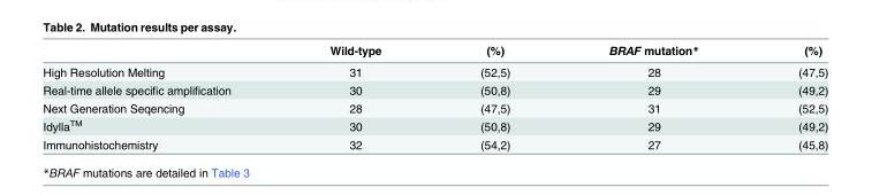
<table><thead><tr><td></td><td>Wild-type</td><td>(%)</td><td>BRAF mutation*</td><td>(%)</td></tr></thead><tbody><tr><td>High Resolution Melting</td><td>31</td><td>(52,5)</td><td>28</td><td>(47,5)</td></tr><tr><td>Real-time allele specific amplification</td><td>30</td><td>(50,8)</td><td>29</td><td>(49,2)</td></tr><tr><td>Next Generation Seqencing</td><td>28</td><td>(47,5)</td><td>31</td><td>(52,5)</td></tr><tr><td>Idylla<sup>TM</sup></td><td>30</td><td>(50,8)</td><td>29</td><td>(49,2)</td></tr><tr><td>Immunohistochemistry</td><td>32</td><td>(54,2)</td><td>27</td><td>(45,8)</td></tr></tbody></table>